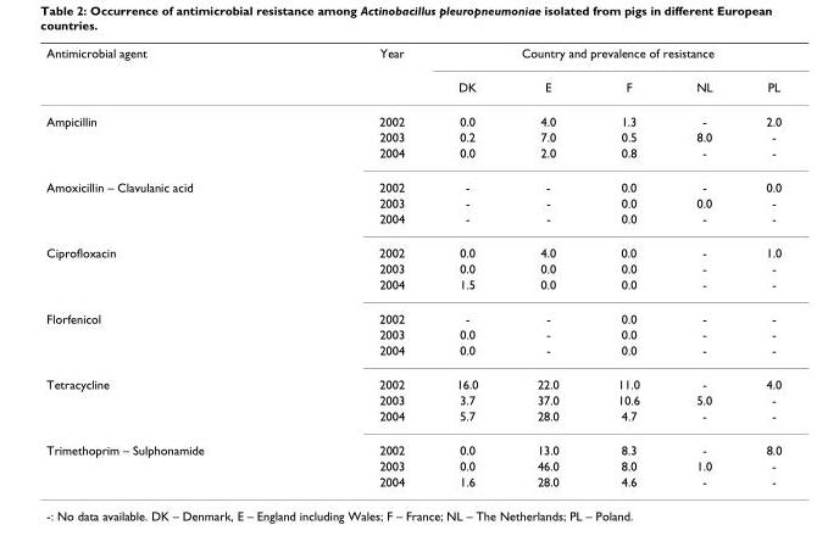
<table><thead><tr><td rowspan="2">Antimicrobial agent</td><td rowspan="2">Year</td><td colspan="5">Country and prevalence of resistance</td></tr><tr><td>DK</td><td>E</td><td>F</td><td>NL</td><td>PL</td></tr></thead><tbody><tr><td rowspan="3">Ampicillin</td><td>2002</td><td>0.0</td><td>4.0</td><td>1.3</td><td>-</td><td>2.0</td></tr><tr><td>2003</td><td>0.2</td><td>7.0</td><td>0.5</td><td>8.0</td><td>-</td></tr><tr><td>2004</td><td>0.0</td><td>2.0</td><td>0.8</td><td>-</td><td>-</td></tr><tr><td rowspan="3">Amoxicillin – Clavulanic acid</td><td>2002</td><td>-</td><td>-</td><td>0.0</td><td>-</td><td>0.0</td></tr><tr><td>2003</td><td>-</td><td>-</td><td>0.0</td><td>0.0</td><td>-</td></tr><tr><td>2004</td><td>-</td><td>-</td><td>0.0</td><td>-</td><td>-</td></tr><tr><td rowspan="3">Ciprofloxacin</td><td>2002</td><td>0.0</td><td>4.0</td><td>0.0</td><td>-</td><td>1.0</td></tr><tr><td>2003</td><td>0.0</td><td>0.0</td><td>0.0</td><td>-</td><td>-</td></tr><tr><td>2004</td><td>1.5</td><td>0.0</td><td>0.0</td><td>-</td><td>-</td></tr><tr><td rowspan="3">Florfenicol</td><td>2002</td><td>-</td><td>-</td><td>0.0</td><td>-</td><td>-</td></tr><tr><td>2003</td><td>0.0</td><td>-</td><td>0.0</td><td>-</td><td>-</td></tr><tr><td>2004</td><td>0.0</td><td>-</td><td>0.0</td><td>-</td><td>-</td></tr><tr><td rowspan="3">Tetracycline</td><td>2002</td><td>16.0</td><td>22.0</td><td>11.0</td><td>-</td><td>4.0</td></tr><tr><td>2003</td><td>3.7</td><td>37.0</td><td>10.6</td><td>5.0</td><td>-</td></tr><tr><td>2004</td><td>5.7</td><td>28.0</td><td>4.7</td><td>-</td><td>-</td></tr><tr><td rowspan="3">Trimethoprim – Sulphonamide</td><td>2002</td><td>0.0</td><td>13.0</td><td>8.3</td><td>-</td><td>8.0</td></tr><tr><td>2003</td><td>0.0</td><td>46.0</td><td>8.0</td><td>1.0</td><td>-</td></tr><tr><td>2004</td><td>1.6</td><td>28.0</td><td>4.6</td><td>-</td><td>-</td></tr></tbody></table>